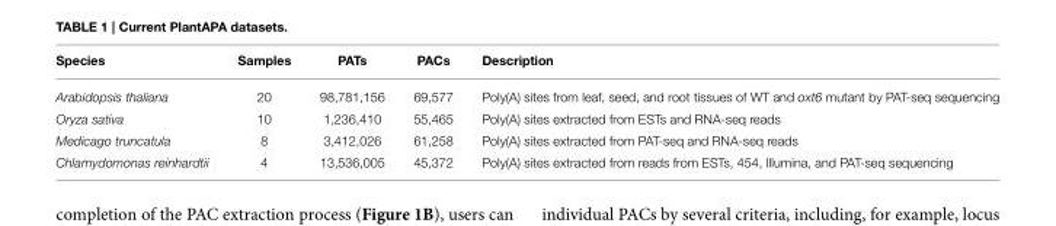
<table><thead><tr><td>Species</td><td>Samples</td><td>PATs</td><td>PACs</td><td>Description</td></tr></thead><tbody><tr><td>Arabidopsis thaliana</td><td>20</td><td>98,781,156</td><td>69,577</td><td>Poly(A) sites from leaf, seed, and root tissues of WT and oxt6 mutant by PAT-seq sequencing</td></tr><tr><td>Oryza sativa</td><td>10</td><td>1,236,410</td><td>55,465</td><td>Poly(A) sites extracted from ESTs and RNA-seq reads</td></tr><tr><td>Medicago truncatula</td><td>8</td><td>3,412,026</td><td>61,258</td><td>Poly(A) sites extracted from PAT-seq and RNA-seq reads</td></tr><tr><td>Chlamydomonas reinhardtii</td><td>4</td><td>13,536,005</td><td>45,372</td><td>Poly(A) sites extracted from reads from ESTs, 454, Illumina, and PAT-seq sequencing</td></tr></tbody></table>